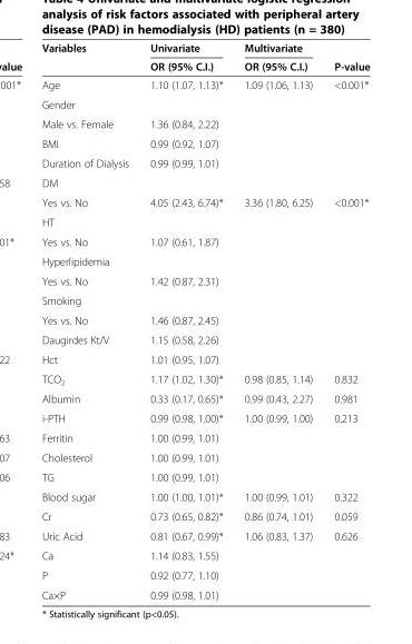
<table><thead><tr><td rowspan="2">Variables</td><td rowspan="2">Univariate OR (95% C.I.)</td><td rowspan="2">Multivariate OR (95% C.I.)</td><td rowspan="2">P-value</td></tr><tr></tr></thead><tbody><tr><td>Age</td><td>1.10 (1.07, 1.13)*</td><td>1.09 (1.06, 1.13)</td><td>&lt;0.001*</td></tr><tr><td colspan="4">Gender</td></tr><tr><td>Male vs. Female</td><td>1.36 (0.84, 2.22)</td><td></td><td></td></tr><tr><td>BMI</td><td>0.99 (0.92, 1.07)</td><td></td><td></td></tr><tr><td>Duration of Dialysis</td><td>0.99 (0.99, 1.01)</td><td></td><td></td></tr><tr><td colspan="4">DM</td></tr><tr><td>Yes vs. No</td><td>4.05 (2.43, 6.74)*</td><td>3.36 (1.80, 6.25)</td><td>&lt;0.001*</td></tr><tr><td colspan="4">HT</td></tr><tr><td>Yes vs. No</td><td>1.07 (0.61, 1.87)</td><td></td><td></td></tr><tr><td colspan="4">Hyperlipidemia</td></tr><tr><td>Yes vs. No</td><td>1.42 (0.87, 2.31)</td><td></td><td></td></tr><tr><td colspan="4">Smoking</td></tr><tr><td>Yes vs. No</td><td>1.46 (0.87, 2.45)</td><td></td><td></td></tr><tr><td>Daugirdes Kt/V</td><td>1.15 (0.58, 2.26)</td><td></td><td></td></tr><tr><td>Hct</td><td>1.01 (0.95, 1.07)</td><td></td><td></td></tr><tr><td>TCO<sub>2</sub></td><td>1.17 (1.02, 1.30)*</td><td>0.98 (0.85, 1.14)</td><td>0.832</td></tr><tr><td>Albumin</td><td>0.33 (0.17, 0.65)*</td><td>0.99 (0.43, 2.27)</td><td>0.981</td></tr><tr><td>i-PTH</td><td>0.99 (0.98, 1.00)*</td><td>1.00 (0.99, 1.00)</td><td>0.213</td></tr><tr><td>Ferritin</td><td>1.00 (0.99, 1.01)</td><td></td><td></td></tr><tr><td>Cholesterol</td><td>1.00 (0.99, 1.01)</td><td></td><td></td></tr><tr><td>TG</td><td>1.00 (0.99, 1.01)</td><td></td><td></td></tr><tr><td>Blood sugar</td><td>1.00 (1.00, 1.01)*</td><td>1.00 (0.99, 1.01)</td><td>0.322</td></tr><tr><td>Cr</td><td>0.73 (0.65, 0.82)*</td><td>0.86 (0.74, 1.01)</td><td>0.059</td></tr><tr><td>Uric Acid</td><td>0.81 (0.67, 0.99)*</td><td>1.06 (0.83, 1.37)</td><td>0.626</td></tr><tr><td>Ca</td><td>1.14 (0.83, 1.55)</td><td></td><td></td></tr><tr><td>P</td><td>0.92 (0.77, 1.10)</td><td></td><td></td></tr><tr><td>Ca×P</td><td>0.99 (0.98, 1.01)</td><td></td><td></td></tr></tbody></table>